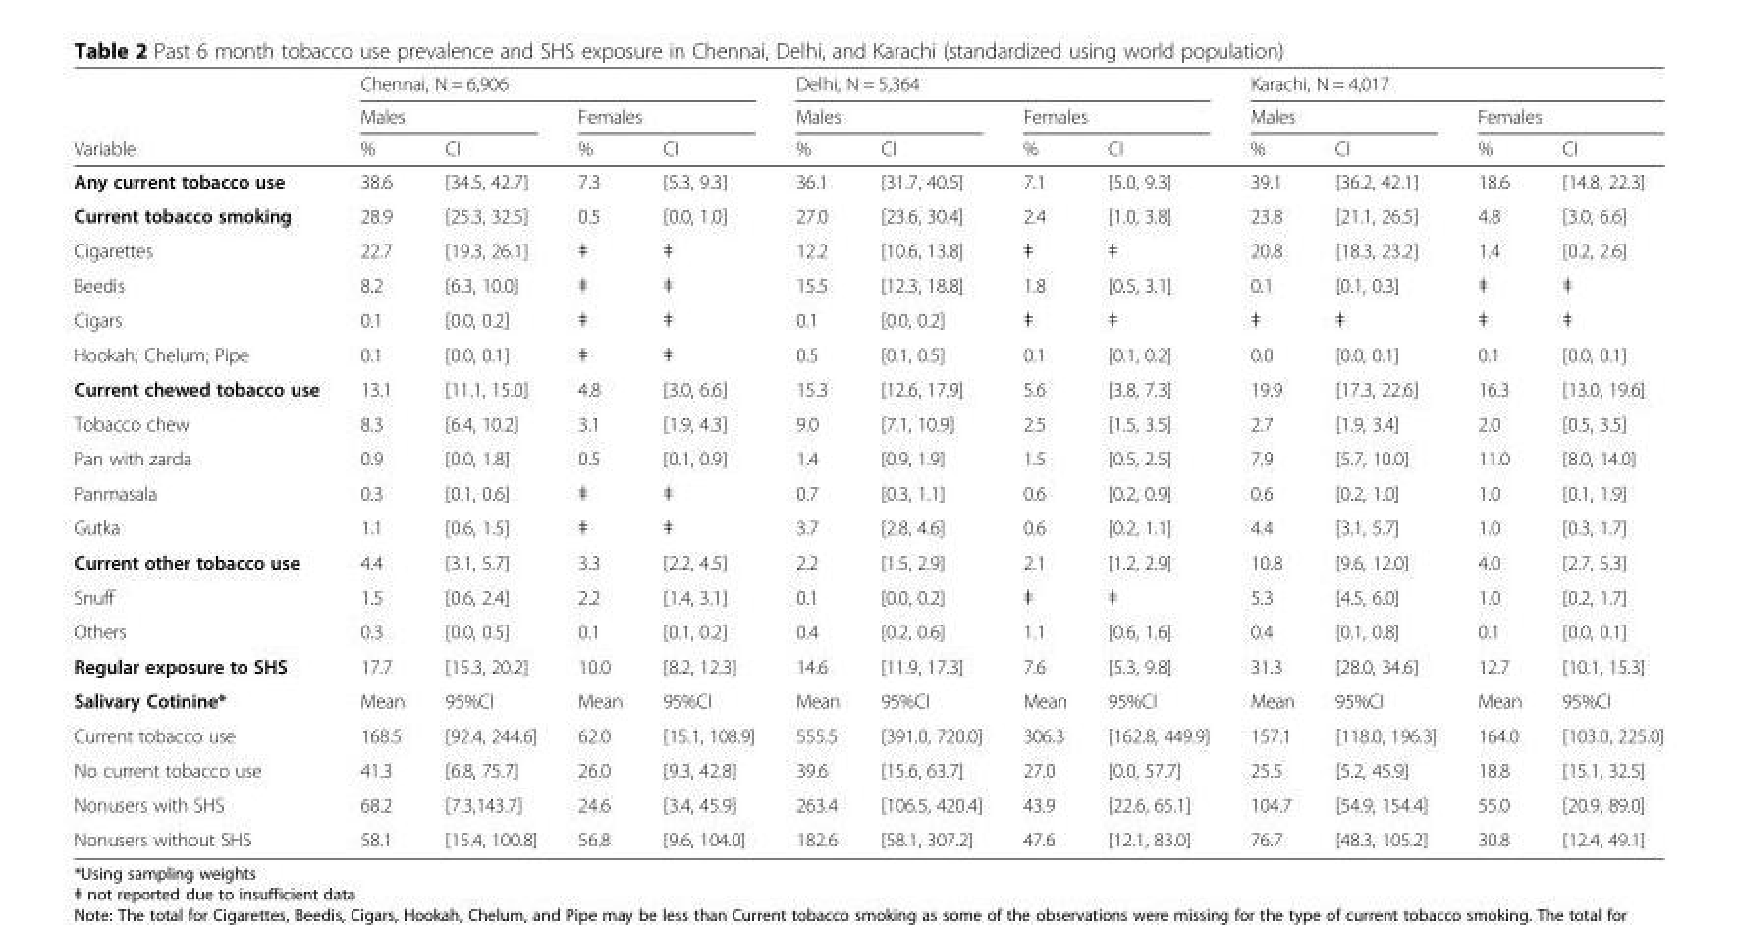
<table><thead><tr><td rowspan="3">Variable</td><td colspan="4">Chennai, N = 6,906</td><td colspan="4">Delhi, N = 5,364</td><td colspan="4">Karachi, N = 4,017</td></tr><tr><td colspan="2">Males</td><td colspan="2">Females</td><td colspan="2">Males</td><td colspan="2">Females</td><td colspan="2">Males</td><td colspan="2">Females</td></tr><tr><td>%</td><td>CI</td><td>%</td><td>CI</td><td>%</td><td>CI</td><td>%</td><td>CI</td><td>%</td><td>CI</td><td>%</td><td>CI</td></tr></thead><tbody><tr><td>Any current tobacco use</td><td>38.6</td><td>[34.5, 42.7]</td><td>7.3</td><td>[5.3, 9.3]</td><td>36.1</td><td>[31.7, 40.5]</td><td>7.1</td><td>[5.0, 9.3]</td><td>39.1</td><td>[36.2, 42.1]</td><td>18.6</td><td>[14.8, 22.3]</td></tr><tr><td>Current tobacco smoking</td><td>28.9</td><td>[25.3, 32.5]</td><td>0.5</td><td>[0.0, 1.0]</td><td>27.0</td><td>[23.6, 30.4]</td><td>2.4</td><td>[1.0, 3.8]</td><td>23.8</td><td>[21.1, 26.5]</td><td>4.8</td><td>[3.0, 6.6]</td></tr><tr><td>Cigarettes</td><td>22.7</td><td>[19.3, 26.1]</td><td>ǂ</td><td>ǂ</td><td>12.2</td><td>[10.6, 13.8]</td><td>ǂ</td><td>ǂ</td><td>20.8</td><td>[18.3, 23.2]</td><td>1.4</td><td>[0.2, 2.6]</td></tr><tr><td>Beedis</td><td>8.2</td><td>[6.3, 10.0]</td><td>ǂ</td><td>ǂ</td><td>15.5</td><td>[12.3, 18.8]</td><td>1.8</td><td>[0.5, 3.1]</td><td>0.1</td><td>[0.1, 0.3]</td><td>ǂ</td><td>ǂ</td></tr><tr><td>Cigars</td><td>0.1</td><td>[0.0, 0.2]</td><td>ǂ</td><td>ǂ</td><td>0.1</td><td>[0.0, 0.2]</td><td>ǂ</td><td>ǂ</td><td>ǂ</td><td>ǂ</td><td>ǂ</td><td>ǂ</td></tr><tr><td>Hookah; Chelum; Pipe</td><td>0.1</td><td>[0.0, 0.1]</td><td>ǂ</td><td>ǂ</td><td>0.5</td><td>[0.1, 0.5]</td><td>0.1</td><td>[0.1, 0.2]</td><td>0.0</td><td>[0.0, 0.1]</td><td>0.1</td><td>[0.0, 0.1]</td></tr><tr><td>Current chewed tobacco use</td><td>13.1</td><td>[11.1, 15.0]</td><td>4.8</td><td>[3.0, 6.6]</td><td>15.3</td><td>[12.6, 17.9]</td><td>5.6</td><td>[3.8, 7.3]</td><td>19.9</td><td>[17.3, 22.6]</td><td>16.3</td><td>[13.0, 19.6]</td></tr><tr><td>Tobacco chew</td><td>8.3</td><td>[6.4, 10.2]</td><td>3.1</td><td>[1.9, 4.3]</td><td>9.0</td><td>[7.1, 10.9]</td><td>2.5</td><td>[1.5, 3.5]</td><td>2.7</td><td>[1.9, 3.4]</td><td>2.0</td><td>[0.5, 3.5]</td></tr><tr><td>Pan with zarda</td><td>0.9</td><td>[0.0, 1.8]</td><td>0.5</td><td>[0.1, 0.9]</td><td>1.4</td><td>[0.9, 1.9]</td><td>1.5</td><td>[0.5, 2.5]</td><td>7.9</td><td>[5.7, 10.0]</td><td>11.0</td><td>[8.0, 14.0]</td></tr><tr><td>Panmasala</td><td>0.3</td><td>[0.1, 0.6]</td><td>ǂ</td><td>ǂ</td><td>0.7</td><td>[0.3, 1.1]</td><td>0.6</td><td>[0.2, 0.9]</td><td>0.6</td><td>[0.2, 1.0]</td><td>1.0</td><td>[0.1, 1.9]</td></tr><tr><td>Gutka</td><td>1.1</td><td>[0.6, 1.5]</td><td>ǂ</td><td>ǂ</td><td>3.7</td><td>[2.8, 4.6]</td><td>0.6</td><td>[0.2, 1.1]</td><td>4.4</td><td>[3.1, 5.7]</td><td>1.0</td><td>[0.3, 1.7]</td></tr><tr><td>Current other tobacco use</td><td>4.4</td><td>[3.1, 5.7]</td><td>3.3</td><td>[2.2, 4.5]</td><td>2.2</td><td>[1.5, 2.9]</td><td>2.1</td><td>[1.2, 2.9]</td><td>10.8</td><td>[9.6, 12.0]</td><td>4.0</td><td>[2.7, 5.3]</td></tr><tr><td>Snuff</td><td>1.5</td><td>[0.6, 2.4]</td><td>2.2</td><td>[1.4, 3.1]</td><td>0.1</td><td>[0.0, 0.2]</td><td>ǂ</td><td>ǂ</td><td>5.3</td><td>[4.5, 6.0]</td><td>1.0</td><td>[0.2, 1.7]</td></tr><tr><td>Others</td><td>0.3</td><td>[0.0, 0.5]</td><td>0.1</td><td>[0.1, 0.2]</td><td>0.4</td><td>[0.2, 0.6]</td><td>1.1</td><td>[0.6, 1.6]</td><td>0.4</td><td>[0.1, 0.8]</td><td>0.1</td><td>[0.0, 0.1]</td></tr><tr><td>Regular exposure to SHS</td><td>17.7</td><td>[15.3, 20.2]</td><td>10.0</td><td>[8.2, 12.3]</td><td>14.6</td><td>[11.9, 17.3]</td><td>7.6</td><td>[5.3, 9.8]</td><td>31.3</td><td>[28.0, 34.6]</td><td>12.7</td><td>[10.1, 15.3]</td></tr><tr><td>Salivary Cotinine*</td><td>Mean</td><td>95%CI</td><td>Mean</td><td>95%CI</td><td>Mean</td><td>95%CI</td><td>Mean</td><td>95%CI</td><td>Mean</td><td>95%CI</td><td>Mean</td><td>95%CI</td></tr><tr><td>Current tobacco use</td><td>168.5</td><td>[92.4, 244.6]</td><td>62.0</td><td>[15.1, 108.9]</td><td>555.5</td><td>[391.0, 720.0]</td><td>306.3</td><td>[162.8, 449.9]</td><td>157.1</td><td>[118.0, 196.3]</td><td>164.0</td><td>[103.0, 225.0]</td></tr><tr><td>No current tobacco use</td><td>41.3</td><td>[6.8, 75.7]</td><td>26.0</td><td>[9.3, 42.8]</td><td>39.6</td><td>[15.6, 63.7]</td><td>27.0</td><td>[0.0, 57.7]</td><td>25.5</td><td>[5.2, 45.9]</td><td>18.8</td><td>[15.1, 32.5]</td></tr><tr><td>Nonusers with SHS</td><td>68.2</td><td>[7.3,143.7]</td><td>24.6</td><td>[3.4, 45.9]</td><td>263.4</td><td>[106.5, 420.4]</td><td>43.9</td><td>[22.6, 65.1]</td><td>104.7</td><td>[54.9, 154.4]</td><td>55.0</td><td>[20.9, 89.0]</td></tr><tr><td>Nonusers without SHS</td><td>58.1</td><td>[15.4, 100.8]</td><td>56.8</td><td>[9.6, 104.0]</td><td>182.6</td><td>[58.1, 307.2]</td><td>47.6</td><td>[12.1, 83.0]</td><td>76.7</td><td>[48.3, 105.2]</td><td>30.8</td><td>[12.4, 49.1]</td></tr></tbody></table>